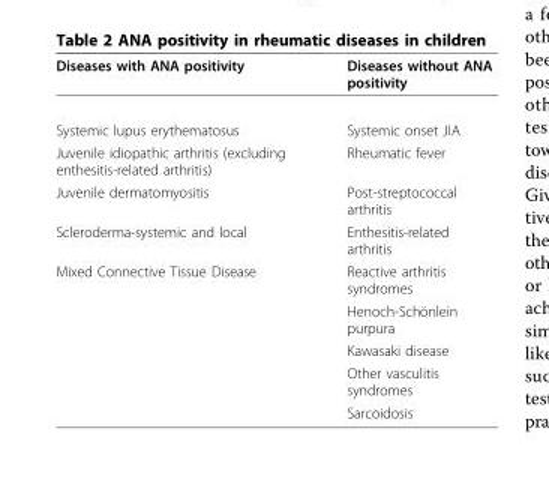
<table><thead><tr><td>Diseases with ANA positivity</td><td>Diseases without ANA positivity</td></tr></thead><tbody><tr><td>Systemic lupus erythematosus</td><td>Systemic onset JIA</td></tr><tr><td>Juvenile idiopathic arthritis (excluding enthesitis-related arthritis)</td><td>Rheumatic fever</td></tr><tr><td>Juvenile dermatomyositis</td><td>Post-streptococcal arthritis</td></tr><tr><td>Scleroderma-systemic and local</td><td>Enthesitis-related arthritis</td></tr><tr><td rowspan="5">Mixed Connective Tissue Disease</td><td>Reactive arthritis syndromes</td></tr><tr><td>Henoch-Schönlein purpura</td></tr><tr><td>Kawasaki disease</td></tr><tr><td>Other vasculitis syndromes</td></tr><tr><td>Sarcoidosis</td></tr></tbody></table>